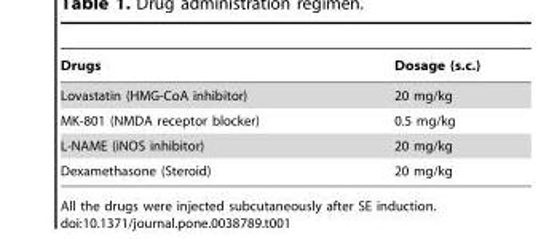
<table><thead><tr><td>Drugs</td><td>Dosage (s.c.)</td></tr></thead><tbody><tr><td>Lovastatin (HMG-CoA inhibitor)</td><td>20 mg/kg</td></tr><tr><td>MK-801 (NMDA receptor blocker)</td><td>0.5 mg/kg</td></tr><tr><td>L-NAME (iNOS inhibitor)</td><td>20 mg/kg</td></tr><tr><td>Dexamethasone (Steroid)</td><td>20 mg/kg</td></tr></tbody></table>